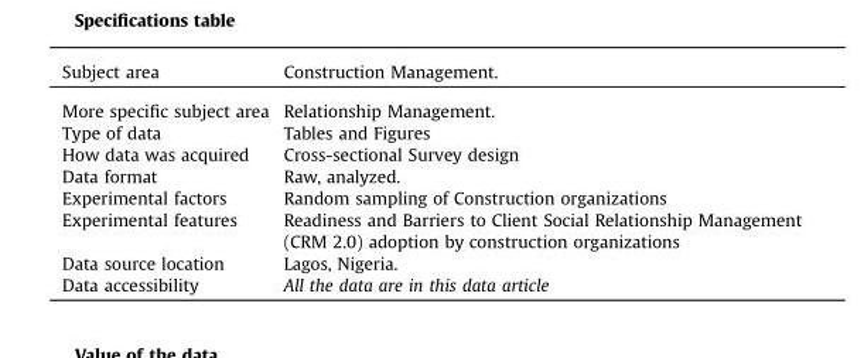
<table><thead><tr><td>Subject area</td><td>Construction Management.</td></tr></thead><tbody><tr><td>More specific subject area</td><td>Relationship Management.</td></tr><tr><td>Type of data</td><td>Tables and Figures</td></tr><tr><td>How data was acquired</td><td>Cross-sectional Survey design</td></tr><tr><td>Data format</td><td>Raw, analyzed.</td></tr><tr><td>Experimental factors</td><td>Random sampling of Construction organizations</td></tr><tr><td>Experimental features</td><td>Readiness and Barriers to Client Social Relationship Management (CRM 2.0) adoption by construction organizations</td></tr><tr><td>Data source location</td><td>Lagos, Nigeria.</td></tr><tr><td>Data accessibility</td><td>All the data are in this data article</td></tr></tbody></table>